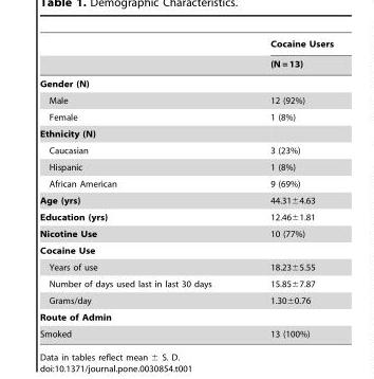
<table><thead><tr><td rowspan="2"></td><td rowspan="2">Cocaine Users (N = 13)</td></tr><tr></tr></thead><tbody><tr><td colspan="2">Gender (N)</td></tr><tr><td>Male</td><td>12 (92%)</td></tr><tr><td>Female</td><td>1 (8%)</td></tr><tr><td colspan="2">Ethnicity (N)</td></tr><tr><td>Caucasian</td><td>3 (23%)</td></tr><tr><td>Hispanic</td><td>1 (8%)</td></tr><tr><td>African American</td><td>9 (69%)</td></tr><tr><td>Age (yrs)</td><td>44.31±4.63</td></tr><tr><td>Education (yrs)</td><td>12.46±1.81</td></tr><tr><td>Nicotine Use</td><td>10 (77%)</td></tr><tr><td colspan="2">Cocaine Use</td></tr><tr><td>Years of use</td><td>18.23±5.55</td></tr><tr><td>Number of days used last in last 30 days</td><td>15.85±7.87</td></tr><tr><td>Grams/day</td><td>1.30±0.76</td></tr><tr><td colspan="2">Route of Admin</td></tr><tr><td>Smoked</td><td>13 (100%)</td></tr></tbody></table>